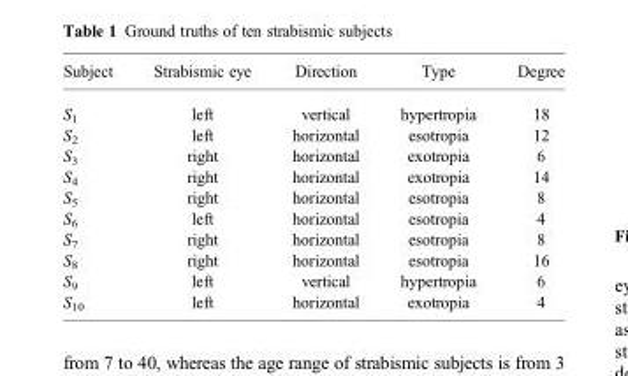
<table><thead><tr><td>Subject</td><td>Strabismic eye</td><td>Direction</td><td>Type</td><td>Degree</td></tr></thead><tbody><tr><td>S<sub>1</sub></td><td>left</td><td>vertical</td><td>hypertropia</td><td>18</td></tr><tr><td>S<sub>2</sub></td><td>left</td><td>horizontal</td><td>esotropia</td><td>12</td></tr><tr><td>S<sub>3</sub></td><td>right</td><td>horizontal</td><td>exotropia</td><td>6</td></tr><tr><td>S<sub>4</sub></td><td>right</td><td>horizontal</td><td>exotropia</td><td>14</td></tr><tr><td>S<sub>5</sub></td><td>right</td><td>horizontal</td><td>esotropia</td><td>8</td></tr><tr><td>S<sub>6</sub></td><td>left</td><td>horizontal</td><td>esotropia</td><td>4</td></tr><tr><td>S<sub>7</sub></td><td>right</td><td>horizontal</td><td>esotropia</td><td>8</td></tr><tr><td>S<sub>8</sub></td><td>right</td><td>horizontal</td><td>esotropia</td><td>16</td></tr><tr><td>S<sub>9</sub></td><td>left</td><td>vertical</td><td>hypertropia</td><td>6</td></tr><tr><td>S<sub>10</sub></td><td>left</td><td>horizontal</td><td>exotropia</td><td>4</td></tr></tbody></table>